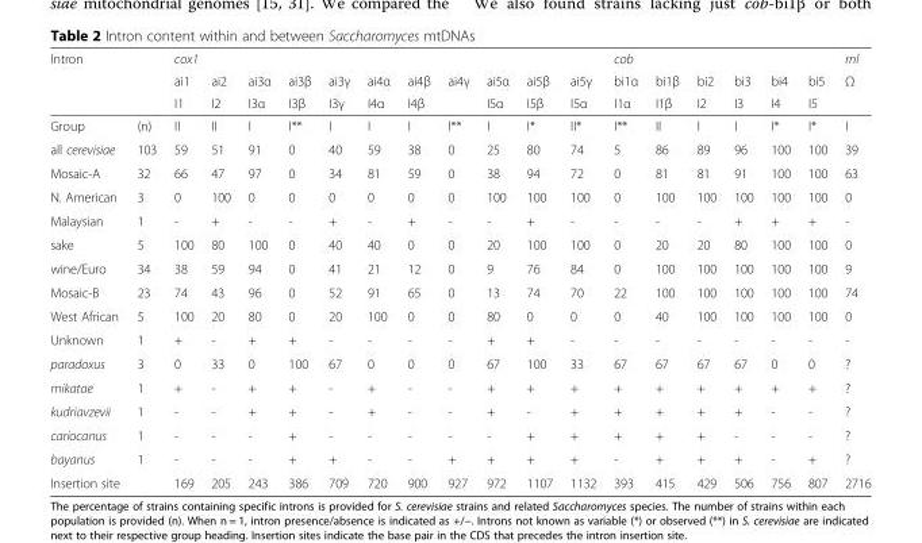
<table><thead><tr><td rowspan="3" colspan="2">Intron</td><td colspan="11">cox1</td><td colspan="6">cob</td><td rowspan="4">rnl Ω I</td></tr><tr><td rowspan="3">ai1 I1 II</td><td rowspan="3">ai2 I2 II</td><td rowspan="3">ai3α I3α I</td><td rowspan="3">ai3β I3β I**</td><td rowspan="3">ai3γ I3γ I</td><td rowspan="3">ai4α I4α I</td><td rowspan="3">ai4β I4β I</td><td rowspan="3">ai4γ I**</td><td rowspan="3">ai5α I5α I</td><td rowspan="3">ai5β I5β I*</td><td rowspan="3">ai5γ I5α II*</td><td rowspan="3">bi1α I1α I**</td><td rowspan="3">bi1β I1β II</td><td rowspan="3">bi2 I2 I</td><td rowspan="3">bi3 I3 I</td><td rowspan="3">bi4 I4 I*</td><td rowspan="3">bi5 I5 I*</td></tr><tr></tr><tr><td>Group</td><td>(n)</td></tr></thead><tbody><tr><td>all cerevisiae</td><td>103</td><td>59</td><td>51</td><td>91</td><td>0</td><td>40</td><td>59</td><td>38</td><td>0</td><td>25</td><td>80</td><td>74</td><td>5</td><td>86</td><td>89</td><td>96</td><td>100</td><td>100</td><td>39</td></tr><tr><td>Mosaic-A</td><td>32</td><td>66</td><td>47</td><td>97</td><td>0</td><td>34</td><td>81</td><td>59</td><td>0</td><td>38</td><td>94</td><td>72</td><td>0</td><td>81</td><td>81</td><td>91</td><td>100</td><td>100</td><td>63</td></tr><tr><td>N. American</td><td>3</td><td>0</td><td>100</td><td>0</td><td>0</td><td>0</td><td>0</td><td>0</td><td>0</td><td>100</td><td>100</td><td>100</td><td>0</td><td>100</td><td>100</td><td>100</td><td>100</td><td>100</td><td>0</td></tr><tr><td>Malaysian</td><td>1</td><td>-</td><td>+</td><td>-</td><td>-</td><td>+</td><td>-</td><td>+</td><td>-</td><td>-</td><td>+</td><td>-</td><td>-</td><td>-</td><td>-</td><td>+</td><td>+</td><td>+</td><td>-</td></tr><tr><td>sake</td><td>5</td><td>100</td><td>80</td><td>100</td><td>0</td><td>40</td><td>40</td><td>0</td><td>0</td><td>20</td><td>100</td><td>100</td><td>0</td><td>20</td><td>20</td><td>80</td><td>100</td><td>100</td><td>0</td></tr><tr><td>wine/Euro</td><td>34</td><td>38</td><td>59</td><td>94</td><td>0</td><td>41</td><td>21</td><td>12</td><td>0</td><td>9</td><td>76</td><td>84</td><td>0</td><td>100</td><td>100</td><td>100</td><td>100</td><td>100</td><td>9</td></tr><tr><td>Mosaic-B</td><td>23</td><td>74</td><td>43</td><td>96</td><td>0</td><td>52</td><td>91</td><td>65</td><td>0</td><td>13</td><td>74</td><td>70</td><td>22</td><td>100</td><td>100</td><td>100</td><td>100</td><td>100</td><td>74</td></tr><tr><td>West African</td><td>5</td><td>100</td><td>20</td><td>80</td><td>0</td><td>20</td><td>100</td><td>0</td><td>0</td><td>80</td><td>0</td><td>0</td><td>0</td><td>40</td><td>100</td><td>100</td><td>100</td><td>100</td><td>0</td></tr><tr><td>Unknown</td><td>1</td><td>+</td><td>-</td><td>+</td><td>+</td><td>-</td><td>-</td><td>-</td><td>-</td><td>+</td><td>+</td><td>-</td><td>-</td><td>-</td><td>-</td><td>-</td><td>-</td><td>-</td><td>-</td></tr><tr><td>paradoxus</td><td>3</td><td>0</td><td>33</td><td>0</td><td>100</td><td>67</td><td>0</td><td>0</td><td>0</td><td>67</td><td>100</td><td>33</td><td>67</td><td>67</td><td>67</td><td>67</td><td>0</td><td>0</td><td>?</td></tr><tr><td>mikatae</td><td>1</td><td>+</td><td>-</td><td>+</td><td>+</td><td>-</td><td>+</td><td>-</td><td>-</td><td>+</td><td>+</td><td>+</td><td>+</td><td>+</td><td>+</td><td>+</td><td>+</td><td>+</td><td>?</td></tr><tr><td>kudriavzevii</td><td>1</td><td>-</td><td>-</td><td>+</td><td>+</td><td>-</td><td>+</td><td>-</td><td>-</td><td>+</td><td>-</td><td>+</td><td>+</td><td>+</td><td>+</td><td>+</td><td>-</td><td>-</td><td>?</td></tr><tr><td>cariocanus</td><td>1</td><td>-</td><td>-</td><td>-</td><td>+</td><td>-</td><td>-</td><td>-</td><td>-</td><td>-</td><td>+</td><td>+</td><td>+</td><td>+</td><td>+</td><td>-</td><td>-</td><td>-</td><td>?</td></tr><tr><td>bayanus</td><td>1</td><td>-</td><td>-</td><td>-</td><td>+</td><td>+</td><td>-</td><td>-</td><td>+</td><td>+</td><td>+</td><td>+</td><td>-</td><td>+</td><td>+</td><td>+</td><td>-</td><td>+</td><td>?</td></tr><tr><td>Insertion site</td><td></td><td>169</td><td>205</td><td>243</td><td>386</td><td>709</td><td>720</td><td>900</td><td>927</td><td>972</td><td>1107</td><td>1132</td><td>393</td><td>415</td><td>429</td><td>506</td><td>756</td><td>807</td><td>2716</td></tr></tbody></table>